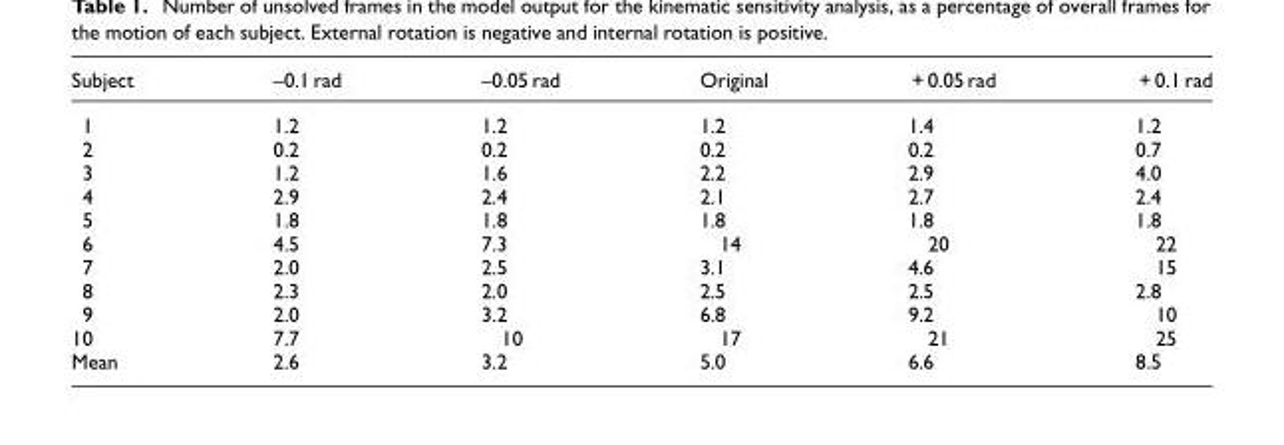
<table><thead><tr><td>Subject</td><td>–0.1 rad</td><td>–0.05 rad</td><td>Original</td><td>+ 0.05 rad</td><td>+ 0.1 rad</td></tr></thead><tbody><tr><td>1</td><td>1.2</td><td>1.2</td><td>1.2</td><td>1.4</td><td>1.2</td></tr><tr><td>2</td><td>0.2</td><td>0.2</td><td>0.2</td><td>0.2</td><td>0.7</td></tr><tr><td>3</td><td>1.2</td><td>1.6</td><td>2.2</td><td>2.9</td><td>4.0</td></tr><tr><td>4</td><td>2.9</td><td>2.4</td><td>2.1</td><td>2.7</td><td>2.4</td></tr><tr><td>5</td><td>1.8</td><td>1.8</td><td>1.8</td><td>1.8</td><td>1.8</td></tr><tr><td>6</td><td>4.5</td><td>7.3</td><td>14</td><td>20</td><td>22</td></tr><tr><td>7</td><td>2.0</td><td>2.5</td><td>3.1</td><td>4.6</td><td>15</td></tr><tr><td>8</td><td>2.3</td><td>2.0</td><td>2.5</td><td>2.5</td><td>2.8</td></tr><tr><td>9</td><td>2.0</td><td>3.2</td><td>6.8</td><td>9.2</td><td>10</td></tr><tr><td>10</td><td>7.7</td><td>10</td><td>17</td><td>21</td><td>25</td></tr><tr><td>Mean</td><td>2.6</td><td>3.2</td><td>5.0</td><td>6.6</td><td>8.5</td></tr></tbody></table>